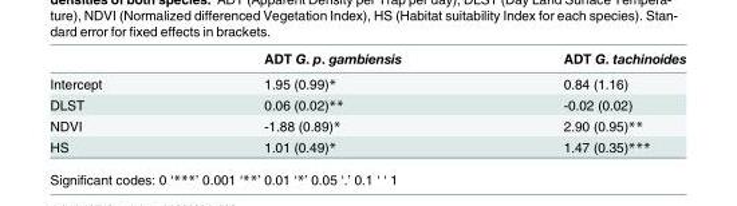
<table><thead><tr><td></td><td>ADT G. p. gambiensis</td><td>ADT G. tachinoides</td></tr></thead><tbody><tr><td>Intercept</td><td>1.95 (0.99)*</td><td>0.84 (1.16)</td></tr><tr><td>DLST</td><td>0.06 (0.02)**</td><td>-0.02 (0.02)</td></tr><tr><td>NDVI</td><td>-1.88 (0.89)*</td><td>2.90 (0.95)**</td></tr><tr><td>HS</td><td>1.01 (0.49)*</td><td>1.47 (0.35)***</td></tr></tbody></table>